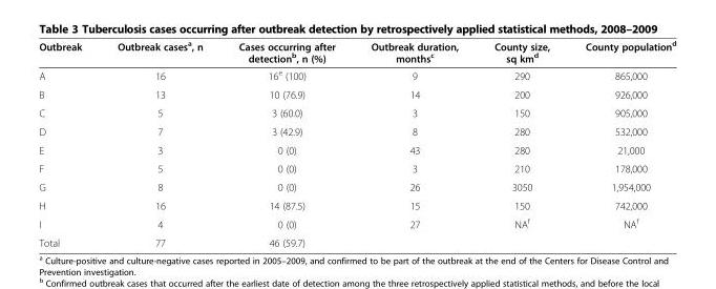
<table><thead><tr><td>Outbreak</td><td>Outbreak cases<sup>a</sup>, n</td><td>Cases occurring after detection<sup>b</sup>, n (%)</td><td>Outbreak duration, months<sup>c</sup></td><td>County size, sq km<sup>d</sup></td><td>County population<sup>d</sup></td></tr></thead><tbody><tr><td>A</td><td>16</td><td>16<sup>e</sup> (100)</td><td>9</td><td>290</td><td>865,000</td></tr><tr><td>B</td><td>13</td><td>10 (76.9)</td><td>14</td><td>200</td><td>926,000</td></tr><tr><td>C</td><td>5</td><td>3 (60.0)</td><td>3</td><td>150</td><td>905,000</td></tr><tr><td>D</td><td>7</td><td>3 (42.9)</td><td>8</td><td>280</td><td>532,000</td></tr><tr><td>E</td><td>3</td><td>0 (0)</td><td>43</td><td>280</td><td>21,000</td></tr><tr><td>F</td><td>5</td><td>0 (0)</td><td>3</td><td>210</td><td>178,000</td></tr><tr><td>G</td><td>8</td><td>0 (0)</td><td>26</td><td>3050</td><td>1,954,000</td></tr><tr><td>H</td><td>16</td><td>14 (87.5)</td><td>15</td><td>150</td><td>742,000</td></tr><tr><td>I</td><td>4</td><td>0 (0)</td><td>27</td><td>NA<sup>f</sup></td><td>NA<sup>f</sup></td></tr><tr><td>Total</td><td>77</td><td>46 (59.7)</td><td></td><td></td><td></td></tr></tbody></table>